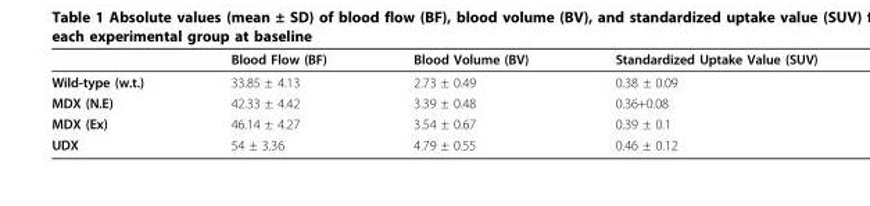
<table><thead><tr><td></td><td>Blood Flow (BF)</td><td>Blood Volume (BV)</td><td>Standardized Uptake Value (SUV)</td></tr></thead><tbody><tr><td>Wild-type (w.t.)</td><td>33.85 ± 4.13</td><td>2.73 ± 0.49</td><td>0.38 ± 0.09</td></tr><tr><td>MDX (N.E)</td><td>42.33 ± 4.42</td><td>3.39 ± 0.48</td><td>0.36+0.08</td></tr><tr><td>MDX (Ex)</td><td>46.14 ± 4.27</td><td>3.54 ± 0.67</td><td>0.39 ± 0.1</td></tr><tr><td>UDX</td><td>54 ± 3.36</td><td>4.79 ± 0.55</td><td>0.46 ± 0.12</td></tr></tbody></table>